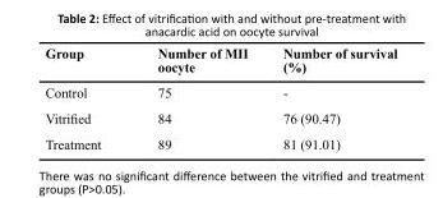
<table><thead><tr><td>Group</td><td>Number of MII oocyte</td><td>Number of survival (%)</td></tr></thead><tbody><tr><td>Control</td><td>75</td><td>-</td></tr><tr><td>Vitrified</td><td>84</td><td>76 (90.47)</td></tr><tr><td>Treatment</td><td>89</td><td>81 (91.01)</td></tr></tbody></table>